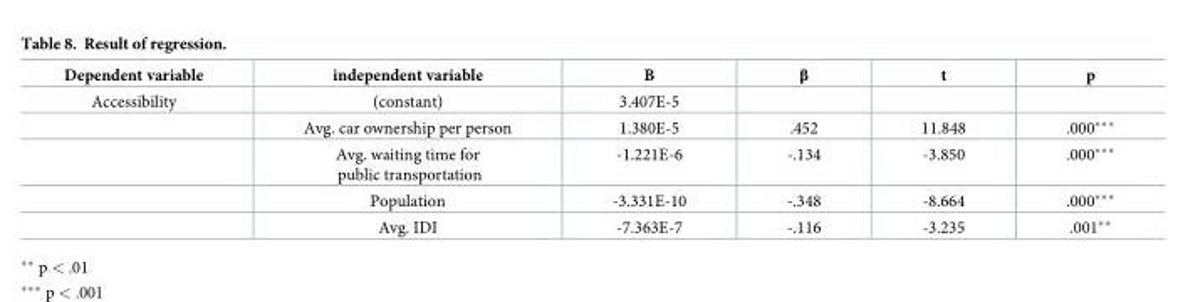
<table><thead><tr><td>Dependent variable</td><td>independent variable</td><td>B</td><td>β</td><td>t</td><td>p</td></tr></thead><tbody><tr><td rowspan="5">Accessibility</td><td>(constant)</td><td>3.407E-5</td><td></td><td></td><td></td></tr><tr><td>Avg. car ownership per person</td><td>1.380E-5</td><td>.452</td><td>11.848</td><td>.000***</td></tr><tr><td>Avg. waiting time for public transportation</td><td>-1.221E-6</td><td>-.134</td><td>-3.850</td><td>.000***</td></tr><tr><td>Population</td><td>-3.331E-10</td><td>-.348</td><td>-8.664</td><td>.000***</td></tr><tr><td>Avg. IDI</td><td>-7.363E-7</td><td>-.116</td><td>-3.235</td><td>.001**</td></tr></tbody></table>